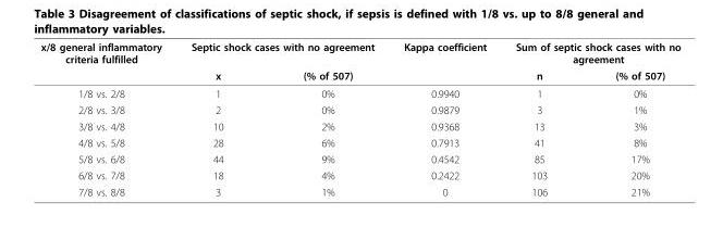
<table><thead><tr><td rowspan="2">x/8 general inflammatory criteria fulfilled</td><td colspan="2">Septic shock cases with no agreement</td><td rowspan="2">Kappa coefficient</td><td colspan="2">Sum of septic shock cases with no agreement</td></tr><tr><td>x</td><td>(% of 507)</td><td>n</td><td>(% of 507)</td></tr></thead><tbody><tr><td>1/8 vs. 2/8</td><td>1</td><td>0%</td><td>0.9940</td><td>1</td><td>0%</td></tr><tr><td>2/8 vs. 3/8</td><td>2</td><td>0%</td><td>0.9879</td><td>3</td><td>1%</td></tr><tr><td>3/8 vs. 4/8</td><td>10</td><td>2%</td><td>0.9368</td><td>13</td><td>3%</td></tr><tr><td>4/8 vs. 5/8</td><td>28</td><td>6%</td><td>0.7913</td><td>41</td><td>8%</td></tr><tr><td>5/8 vs. 6/8</td><td>44</td><td>9%</td><td>0.4542</td><td>85</td><td>17%</td></tr><tr><td>6/8 vs. 7/8</td><td>18</td><td>4%</td><td>0.2422</td><td>103</td><td>20%</td></tr><tr><td>7/8 vs. 8/8</td><td>3</td><td>1%</td><td>0</td><td>106</td><td>21%</td></tr></tbody></table>